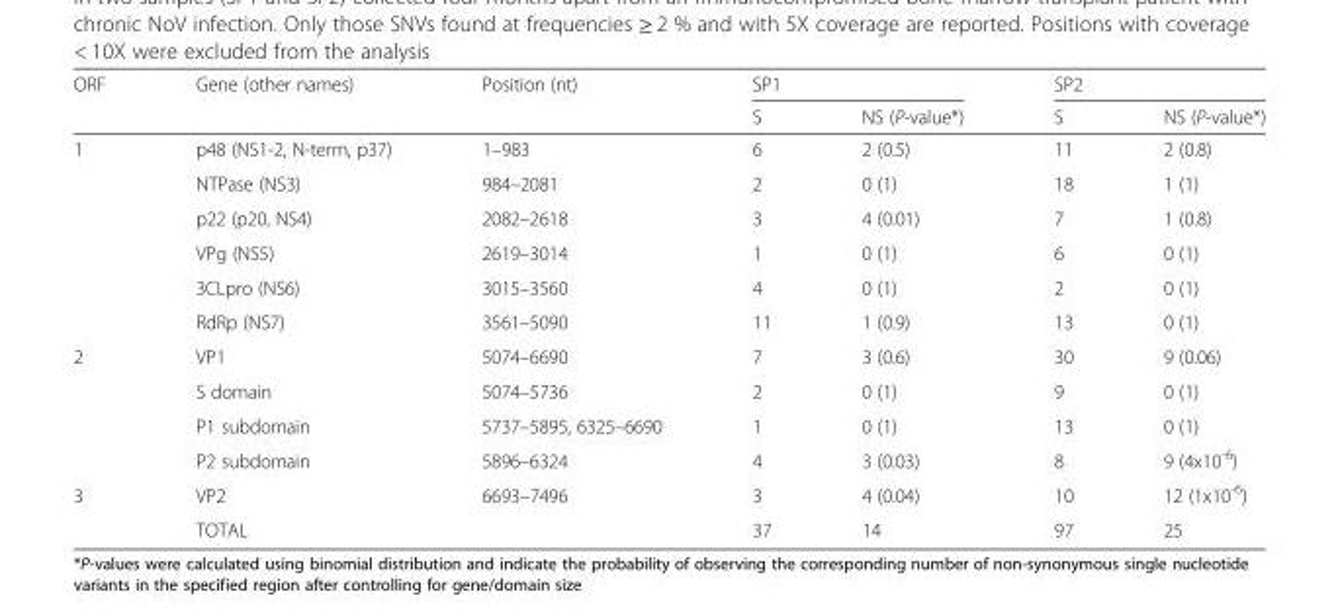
<table><thead><tr><td rowspan="2">ORF</td><td rowspan="2">Gene (other names)</td><td rowspan="2">Position (nt)</td><td colspan="2">SP1</td><td colspan="2">SP2</td></tr><tr><td>S</td><td>NS (P-value*)</td><td>S</td><td>NS (P-value*)</td></tr></thead><tbody><tr><td rowspan="6">1</td><td>p48 (NS1-2, N-term, p37)</td><td>1–983</td><td>6</td><td>2 (0.5)</td><td>11</td><td>2 (0.8)</td></tr><tr><td>NTPase (NS3)</td><td>984–2081</td><td>2</td><td>0 (1)</td><td>18</td><td>1 (1)</td></tr><tr><td>p22 (p20, NS4)</td><td>2082–2618</td><td>3</td><td>4 (0.01)</td><td>7</td><td>1 (0.8)</td></tr><tr><td>VPg (NS5)</td><td>2619–3014</td><td>1</td><td>0 (1)</td><td>6</td><td>0 (1)</td></tr><tr><td>3CLpro (NS6)</td><td>3015–3560</td><td>4</td><td>0 (1)</td><td>2</td><td>0 (1)</td></tr><tr><td>RdRp (NS7)</td><td>3561–5090</td><td>11</td><td>1 (0.9)</td><td>13</td><td>0 (1)</td></tr><tr><td rowspan="4">2</td><td>VP1</td><td>5074–6690</td><td>7</td><td>3 (0.6)</td><td>30</td><td>9 (0.06)</td></tr><tr><td>S domain</td><td>5074–5736</td><td>2</td><td>0 (1)</td><td>9</td><td>0 (1)</td></tr><tr><td>P1 subdomain</td><td>5737–5895, 6325–6690</td><td>1</td><td>0 (1)</td><td>13</td><td>0 (1)</td></tr><tr><td>P2 subdomain</td><td>5896–6324</td><td>4</td><td>3 (0.03)</td><td>8</td><td>9 (4x10<sup>-6</sup>)</td></tr><tr><td rowspan="2">3</td><td>VP2</td><td>6693–7496</td><td>3</td><td>4 (0.04)</td><td>10</td><td>12 (1x10<sup>-6</sup>)</td></tr><tr><td>TOTAL</td><td></td><td>37</td><td>14</td><td>97</td><td>25</td></tr></tbody></table>